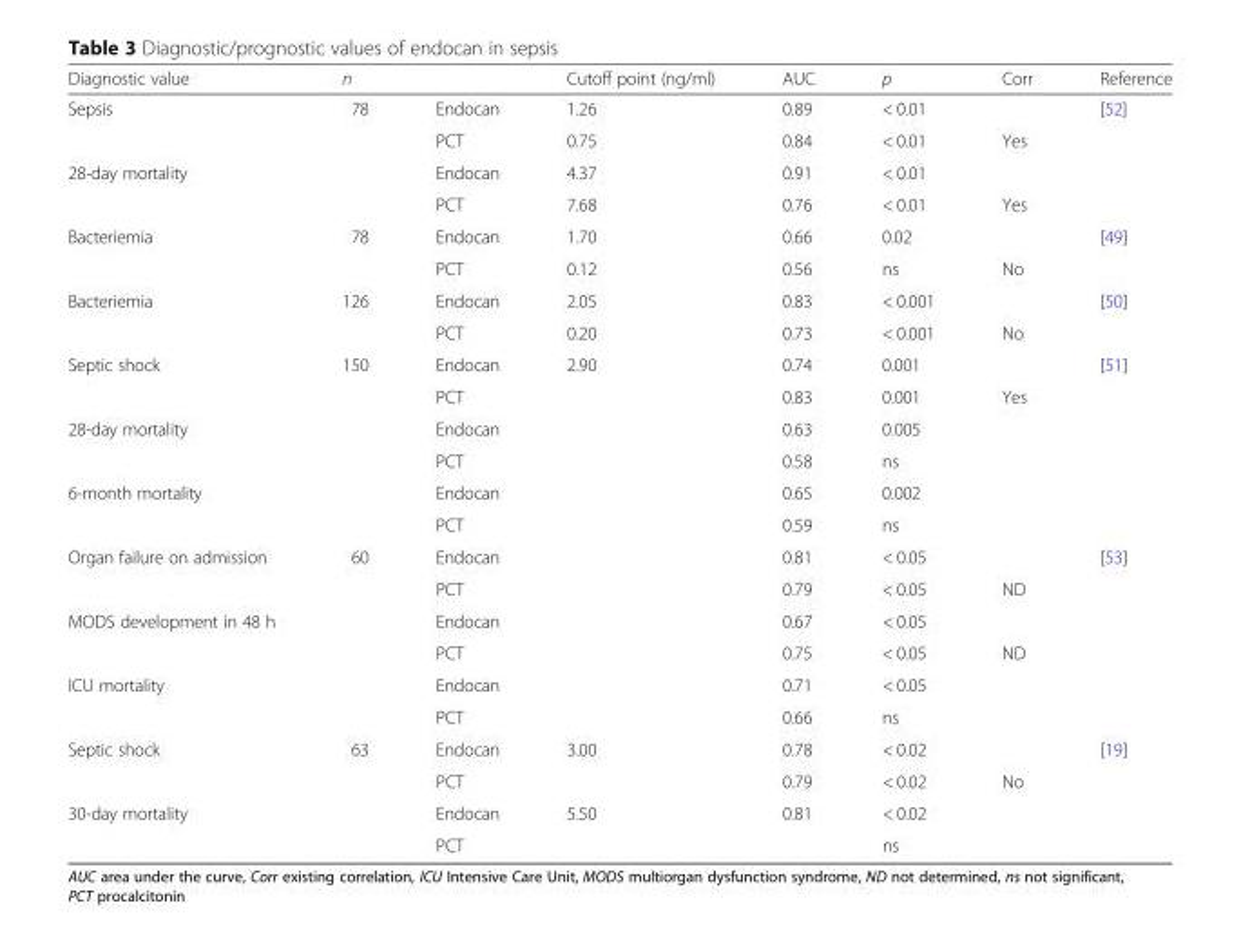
<table><thead><tr><td>Diagnostic value</td><td>n</td><td></td><td>Cutoff point (ng/ml)</td><td>AUC</td><td>p</td><td>Corr</td><td>Reference</td></tr></thead><tbody><tr><td rowspan="2">Sepsis</td><td rowspan="4">78</td><td>Endocan</td><td>1.26</td><td>0.89</td><td>&lt; 0.01</td><td></td><td rowspan="4">[52]</td></tr><tr><td>PCT</td><td>0.75</td><td>0.84</td><td>&lt; 0.01</td><td>Yes</td></tr><tr><td rowspan="2">28-day mortality</td><td>Endocan</td><td>4.37</td><td>0.91</td><td>&lt; 0.01</td><td></td></tr><tr><td>PCT</td><td>7.68</td><td>0.76</td><td>&lt; 0.01</td><td>Yes</td></tr><tr><td rowspan="2">Bacteriemia</td><td rowspan="2">78</td><td>Endocan</td><td>1.70</td><td>0.66</td><td>0.02</td><td></td><td rowspan="2">[49]</td></tr><tr><td>PCT</td><td>0.12</td><td>0.56</td><td>ns</td><td>No</td></tr><tr><td rowspan="2">Bacteriemia</td><td>126</td><td>Endocan</td><td>2.05</td><td>0.83</td><td>&lt; 0.001</td><td></td><td rowspan="2">[50]</td></tr><tr><td></td><td>PCT</td><td>0.20</td><td>0.73</td><td>&lt; 0.001</td><td>No</td></tr><tr><td rowspan="2">Septic shock</td><td rowspan="6">150</td><td>Endocan</td><td>2.90</td><td>0.74</td><td>0.001</td><td></td><td rowspan="6">[51]</td></tr><tr><td>PCT</td><td></td><td>0.83</td><td>0.001</td><td>Yes</td></tr><tr><td rowspan="2">28-day mortality</td><td>Endocan</td><td></td><td>0.63</td><td>0.005</td><td></td></tr><tr><td>PCT</td><td></td><td>0.58</td><td>ns</td><td></td></tr><tr><td rowspan="2">6-month mortality</td><td>Endocan</td><td></td><td>0.65</td><td>0.002</td><td></td></tr><tr><td>PCT</td><td></td><td>0.59</td><td>ns</td><td></td></tr><tr><td rowspan="2">Organ failure on admission</td><td rowspan="6">60</td><td>Endocan</td><td></td><td>0.81</td><td>&lt; 0.05</td><td></td><td rowspan="6">[53]</td></tr><tr><td>PCT</td><td></td><td>0.79</td><td>&lt; 0.05</td><td>ND</td></tr><tr><td rowspan="2">MODS development in 48 h</td><td>Endocan</td><td></td><td>0.67</td><td>&lt; 0.05</td><td></td></tr><tr><td>PCT</td><td></td><td>0.75</td><td>&lt; 0.05</td><td>ND</td></tr><tr><td rowspan="2">ICU mortality</td><td>Endocan</td><td></td><td>0.71</td><td>&lt; 0.05</td><td></td></tr><tr><td>PCT</td><td></td><td>0.66</td><td>ns</td><td></td></tr><tr><td rowspan="2">Septic shock</td><td rowspan="4">63</td><td>Endocan</td><td>3.00</td><td>0.78</td><td>&lt; 0.02</td><td></td><td rowspan="4">[19]</td></tr><tr><td>PCT</td><td></td><td>0.79</td><td>&lt; 0.02</td><td>No</td></tr><tr><td rowspan="2">30-day mortality</td><td>Endocan</td><td>5.50</td><td>0.81</td><td>&lt; 0.02</td><td></td></tr><tr><td>PCT</td><td></td><td></td><td>ns</td><td></td></tr></tbody></table>